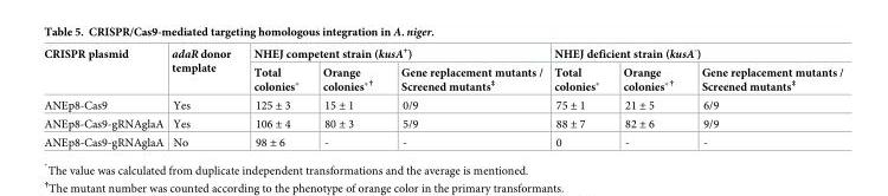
<table><thead><tr><td rowspan="2">CRISPR plasmid</td><td rowspan="2">adaR donor template</td><td colspan="3">NHEJ competent strain (kusA<sup>+</sup>)</td><td colspan="3">NHEJ deficient strain (kusA<sup>-</sup>)</td></tr><tr><td>Total colonies*</td><td>Orange colonies*<sup>†</sup></td><td>Gene replacement mutants / Screened mutants<sup>‡</sup></td><td>Total colonies*</td><td>Orange colonies*<sup>†</sup></td><td>Gene replacement mutants / Screened mutants<sup>‡</sup></td></tr></thead><tbody><tr><td>ANEp8-Cas9</td><td>Yes</td><td>125 ± 3</td><td>15 ± 1</td><td>0/9</td><td>75 ± 1</td><td>21 ± 5</td><td>6/9</td></tr><tr><td>ANEp8-Cas9-gRNAglaA</td><td>Yes</td><td>106 ± 4</td><td>80 ± 3</td><td>5/9</td><td>88 ± 7</td><td>82 ± 6</td><td>9/9</td></tr><tr><td>ANEp8-Cas9-gRNAglaA</td><td>No</td><td>98 ± 6</td><td>-</td><td>-</td><td>0</td><td>-</td><td>-</td></tr></tbody></table>